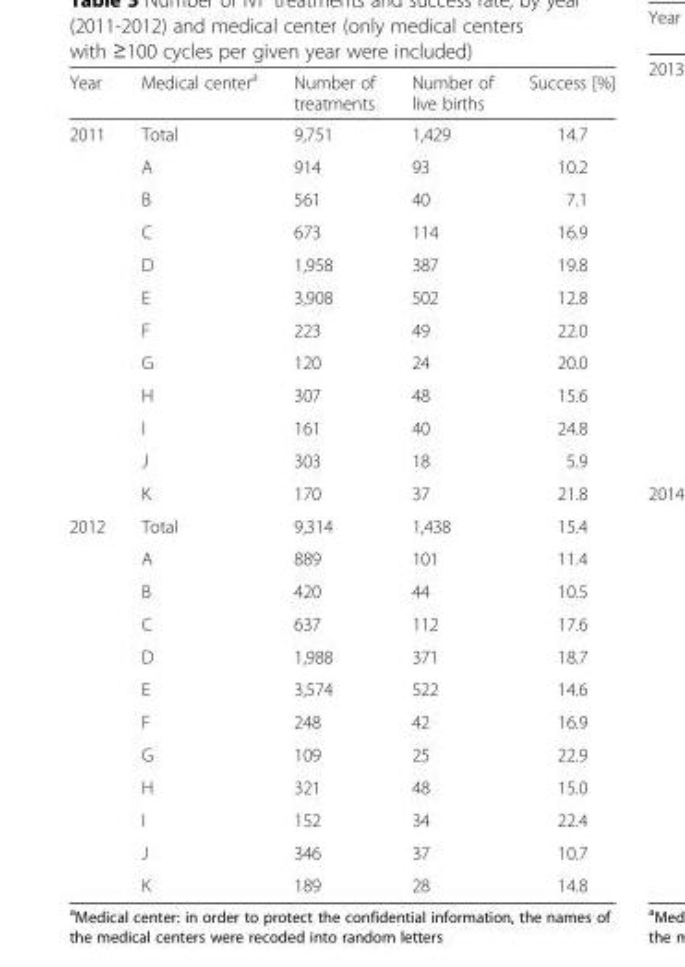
<table><thead><tr><td>Year</td><td>Medical center<sup>a</sup></td><td>Number of treatments</td><td>Number of live births</td><td>Success [%]</td></tr></thead><tbody><tr><td rowspan="12">2011</td><td>Total</td><td>9,751</td><td>1,429</td><td>14.7</td></tr><tr><td>A</td><td>914</td><td>93</td><td>10.2</td></tr><tr><td>B</td><td>561</td><td>40</td><td>7.1</td></tr><tr><td>C</td><td>673</td><td>114</td><td>16.9</td></tr><tr><td>D</td><td>1,958</td><td>387</td><td>19.8</td></tr><tr><td>E</td><td>3,908</td><td>502</td><td>12.8</td></tr><tr><td>F</td><td>223</td><td>49</td><td>22.0</td></tr><tr><td>G</td><td>120</td><td>24</td><td>20.0</td></tr><tr><td>H</td><td>307</td><td>48</td><td>15.6</td></tr><tr><td>I</td><td>161</td><td>40</td><td>24.8</td></tr><tr><td>J</td><td>303</td><td>18</td><td>5.9</td></tr><tr><td>K</td><td>170</td><td>37</td><td>21.8</td></tr><tr><td rowspan="12">2012</td><td>Total</td><td>9,314</td><td>1,438</td><td>15.4</td></tr><tr><td>A</td><td>889</td><td>101</td><td>11.4</td></tr><tr><td>B</td><td>420</td><td>44</td><td>10.5</td></tr><tr><td>C</td><td>637</td><td>112</td><td>17.6</td></tr><tr><td>D</td><td>1,988</td><td>371</td><td>18.7</td></tr><tr><td>E</td><td>3,574</td><td>522</td><td>14.6</td></tr><tr><td>F</td><td>248</td><td>42</td><td>16.9</td></tr><tr><td>G</td><td>109</td><td>25</td><td>22.9</td></tr><tr><td>H</td><td>321</td><td>48</td><td>15.0</td></tr><tr><td>I</td><td>152</td><td>34</td><td>22.4</td></tr><tr><td>J</td><td>346</td><td>37</td><td>10.7</td></tr><tr><td>K</td><td>189</td><td>28</td><td>14.8</td></tr></tbody></table>